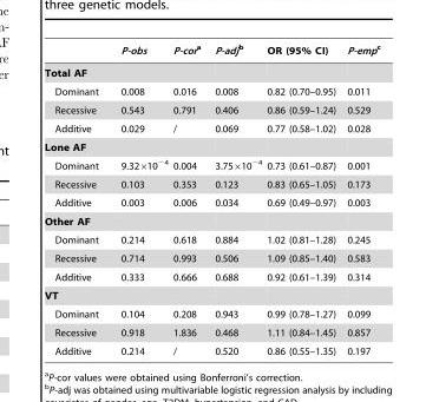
<table><thead><tr><td></td><td>P-obs</td><td>P-cora</td><td>P-adjb</td><td>OR (95% CI)</td><td>P-empc</td></tr></thead><tbody><tr><td colspan="6">Total AF</td></tr><tr><td>Dominant</td><td>0.008</td><td>0.016</td><td>0.008</td><td>0.82 (0.70–0.95)</td><td>0.011</td></tr><tr><td>Recessive</td><td>0.543</td><td>0.791</td><td>0.406</td><td>0.86 (0.59–1.24)</td><td>0.529</td></tr><tr><td>Additive</td><td>0.029</td><td>/</td><td>0.069</td><td>0.77 (0.58–1.02)</td><td>0.028</td></tr><tr><td colspan="6">Lone AF</td></tr><tr><td>Dominant</td><td>9.32×10<sup>−4</sup></td><td>0.004</td><td>3.75×10<sup>−4</sup></td><td>0.73 (0.61–0.87)</td><td>0.001</td></tr><tr><td>Recessive</td><td>0.103</td><td>0.353</td><td>0.123</td><td>0.83 (0.65–1.05)</td><td>0.173</td></tr><tr><td>Additive</td><td>0.003</td><td>0.006</td><td>0.034</td><td>0.69 (0.49–0.97)</td><td>0.003</td></tr><tr><td colspan="6">Other AF</td></tr><tr><td>Dominant</td><td>0.214</td><td>0.618</td><td>0.884</td><td>1.02 (0.81–1.28)</td><td>0.245</td></tr><tr><td>Recessive</td><td>0.714</td><td>0.993</td><td>0.506</td><td>1.09 (0.85–1.40)</td><td>0.583</td></tr><tr><td>Additive</td><td>0.333</td><td>0.666</td><td>0.688</td><td>0.92 (0.61–1.39)</td><td>0.314</td></tr><tr><td colspan="6">VT</td></tr><tr><td>Dominant</td><td>0.104</td><td>0.208</td><td>0.943</td><td>0.99 (0.78–1.27)</td><td>0.099</td></tr><tr><td>Recessive</td><td>0.918</td><td>1.836</td><td>0.468</td><td>1.11 (0.84–1.45)</td><td>0.857</td></tr><tr><td>Additive</td><td>0.214</td><td>/</td><td>0.520</td><td>0.86 (0.55–1.35)</td><td>0.197</td></tr></tbody></table>